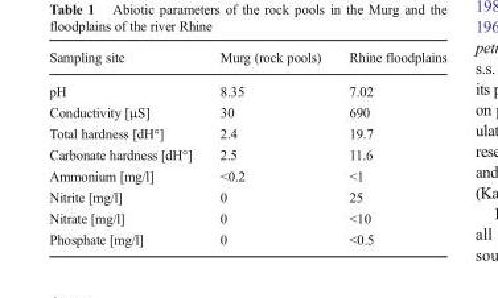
<table><thead><tr><td>Sampling site</td><td>Murg (rock pools)</td><td>Rhine floodplains</td></tr></thead><tbody><tr><td>pH</td><td>8.35</td><td>7.02</td></tr><tr><td>Conductivity [μS]</td><td>30</td><td>690</td></tr><tr><td>Total hardness [dH°]</td><td>2.4</td><td>19.7</td></tr><tr><td>Carbonate hardness [dH°]</td><td>2.5</td><td>11.6</td></tr><tr><td>Ammonium [mg/l]</td><td>&lt;0.2</td><td>&lt;1</td></tr><tr><td>Nitrite [mg/l]</td><td>0</td><td>25</td></tr><tr><td>Nitrate [mg/l]</td><td>0</td><td>&lt;10</td></tr><tr><td>Phosphate [mg/l]</td><td>0</td><td>&lt;0.5</td></tr></tbody></table>